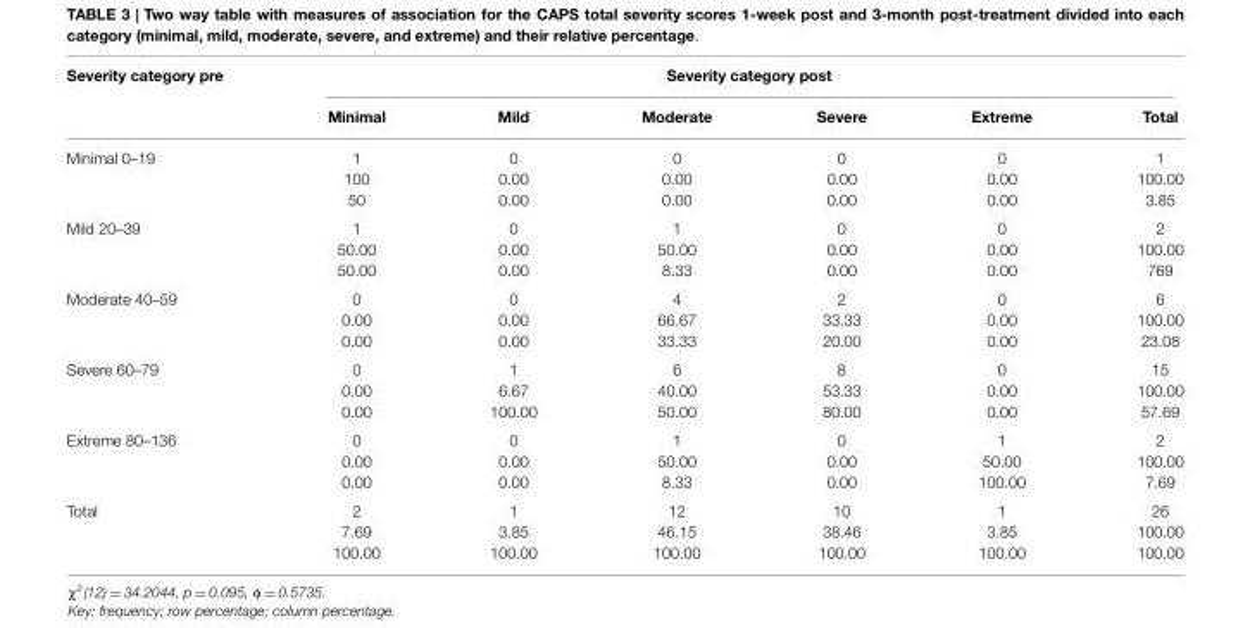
<table><thead><tr><td rowspan="2">Severity category pre</td><td colspan="6">Severity category post</td></tr><tr><td>Minimal</td><td>Mild</td><td>Moderate</td><td>Severe</td><td>Extreme</td><td>Total</td></tr></thead><tbody><tr><td rowspan="3">Minimal 0–19</td><td>1</td><td>0</td><td>0</td><td>0</td><td>0</td><td>1</td></tr><tr><td>100</td><td>0.00</td><td>0.00</td><td>0.00</td><td>0.00</td><td>100.00</td></tr><tr><td>50</td><td>0.00</td><td>0.00</td><td>0.00</td><td>0.00</td><td>3.85</td></tr><tr><td rowspan="3">Mild 20–39</td><td>1</td><td>0</td><td>1</td><td>0</td><td>0</td><td>2</td></tr><tr><td>50.00</td><td>0.00</td><td>50.00</td><td>0.00</td><td>0.00</td><td>100.00</td></tr><tr><td>50.00</td><td>0.00</td><td>8.33</td><td>0.00</td><td>0.00</td><td>769</td></tr><tr><td rowspan="3">Moderate 40–59</td><td>0</td><td>0</td><td>4</td><td>2</td><td>0</td><td>6</td></tr><tr><td>0.00</td><td>0.00</td><td>66.67</td><td>33.33</td><td>0.00</td><td>100.00</td></tr><tr><td>0.00</td><td>0.00</td><td>33.33</td><td>20.00</td><td>0.00</td><td>23.08</td></tr><tr><td rowspan="3">Severe 60–79</td><td>0</td><td>1</td><td>6</td><td>8</td><td>0</td><td>15</td></tr><tr><td>0.00</td><td>6.67</td><td>40.00</td><td>53.33</td><td>0.00</td><td>100.00</td></tr><tr><td>0.00</td><td>100.00</td><td>50.00</td><td>80.00</td><td>0.00</td><td>57.69</td></tr><tr><td rowspan="3">Extreme 80–136</td><td>0</td><td>0</td><td>1</td><td>0</td><td>1</td><td>2</td></tr><tr><td>0.00</td><td>0.00</td><td>50.00</td><td>0.00</td><td>50.00</td><td>100.00</td></tr><tr><td>0.00</td><td>0.00</td><td>8.33</td><td>0.00</td><td>100.00</td><td>7.69</td></tr><tr><td rowspan="3">Total</td><td>2</td><td>1</td><td>12</td><td>10</td><td>1</td><td>26</td></tr><tr><td>7.69</td><td>3.85</td><td>46.15</td><td>38.46</td><td>3.85</td><td>100.00</td></tr><tr><td>100.00</td><td>100.00</td><td>100.00</td><td>100.00</td><td>100.00</td><td>100.00</td></tr></tbody></table>